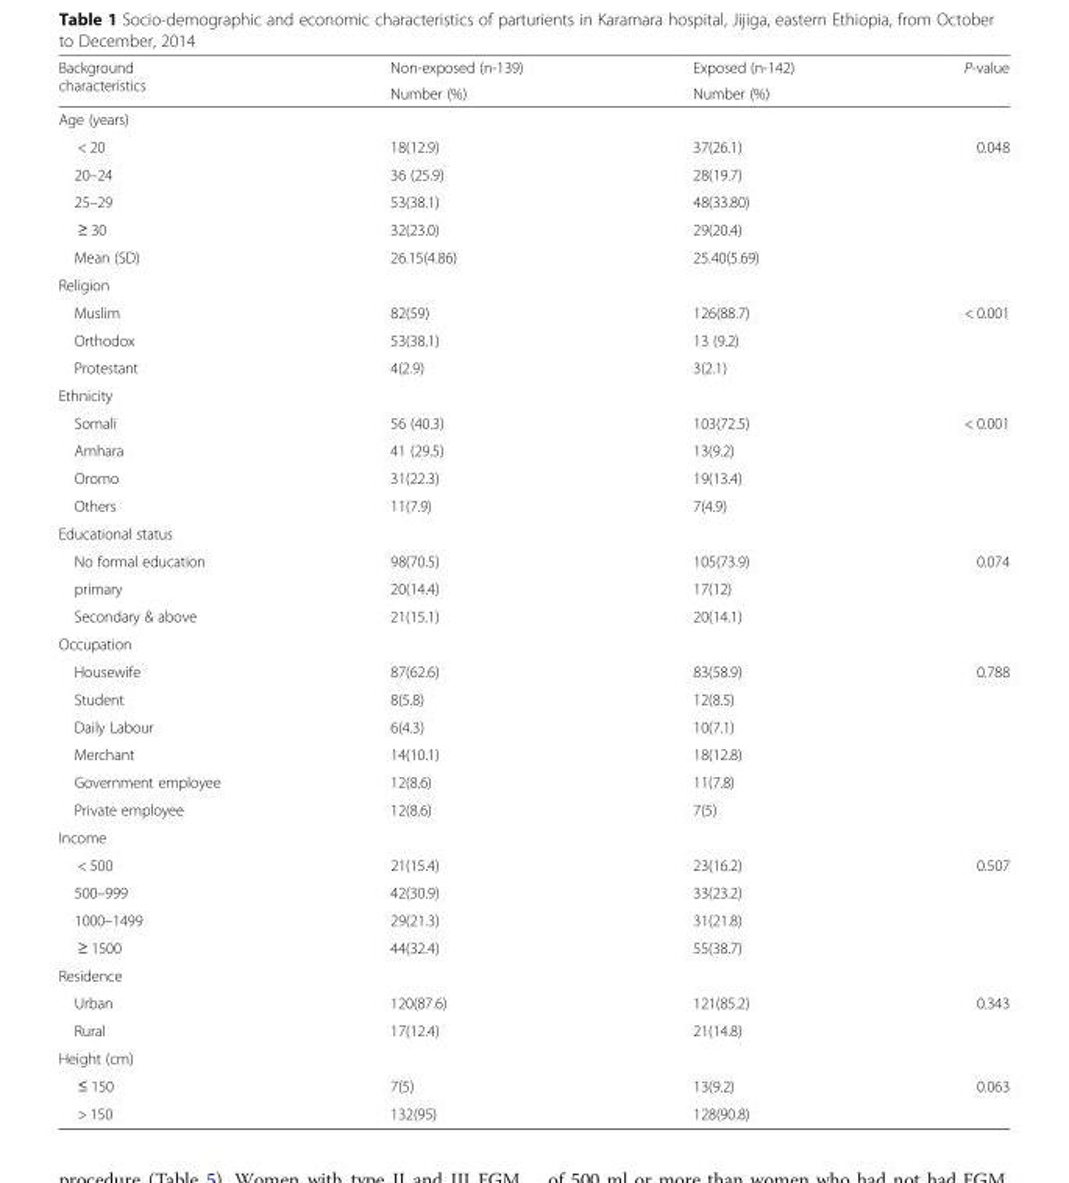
<table><thead><tr><td rowspan="2">Background characteristics</td><td rowspan="2">Non-exposed (n-139) Number (%)</td><td rowspan="2">Exposed (n-142) Number (%)</td><td rowspan="2">P-value</td></tr><tr></tr></thead><tbody><tr><td colspan="4">Age (years)</td></tr><tr><td>&lt; 20</td><td>18(12.9)</td><td>37(26.1)</td><td>0.048</td></tr><tr><td>20–24</td><td>36 (25.9)</td><td>28(19.7)</td><td></td></tr><tr><td>25–29</td><td>53(38.1)</td><td>48(33.80)</td><td></td></tr><tr><td>≥ 30</td><td>32(23.0)</td><td>29(20.4)</td><td></td></tr><tr><td>Mean (SD)</td><td>26.15(4.86)</td><td>25.40(5.69)</td><td></td></tr><tr><td colspan="4">Religion</td></tr><tr><td>Muslim</td><td>82(59)</td><td>126(88.7)</td><td>&lt; 0.001</td></tr><tr><td>Orthodox</td><td>53(38.1)</td><td>13 (9.2)</td><td></td></tr><tr><td>Protestant</td><td>4(2.9)</td><td>3(2.1)</td><td></td></tr><tr><td colspan="4">Ethnicity</td></tr><tr><td>Somali</td><td>56 (40.3)</td><td>103(72.5)</td><td>&lt; 0.001</td></tr><tr><td>Amhara</td><td>41 (29.5)</td><td>13(9.2)</td><td></td></tr><tr><td>Oromo</td><td>31(22.3)</td><td>19(13.4)</td><td></td></tr><tr><td>Others</td><td>11(7.9)</td><td>7(4.9)</td><td></td></tr><tr><td colspan="4">Educational status</td></tr><tr><td>No formal education</td><td>98(70.5)</td><td>105(73.9)</td><td>0.074</td></tr><tr><td>primary</td><td>20(14.4)</td><td>17(12)</td><td></td></tr><tr><td>Secondary &amp; above</td><td>21(15.1)</td><td>20(14.1)</td><td></td></tr><tr><td colspan="4">Occupation</td></tr><tr><td>Housewife</td><td>87(62.6)</td><td>83(58.9)</td><td>0.788</td></tr><tr><td>Student</td><td>8(5.8)</td><td>12(8.5)</td><td></td></tr><tr><td>Daily Labour</td><td>6(4.3)</td><td>10(7.1)</td><td></td></tr><tr><td>Merchant</td><td>14(10.1)</td><td>18(12.8)</td><td></td></tr><tr><td>Government employee</td><td>12(8.6)</td><td>11(7.8)</td><td></td></tr><tr><td>Private employee</td><td>12(8.6)</td><td>7(5)</td><td></td></tr><tr><td colspan="4">Income</td></tr><tr><td>&lt; 500</td><td>21(15.4)</td><td>23(16.2)</td><td>0.507</td></tr><tr><td>500–999</td><td>42(30.9)</td><td>33(23.2)</td><td></td></tr><tr><td>1000–1499</td><td>29(21.3)</td><td>31(21.8)</td><td></td></tr><tr><td>≥ 1500</td><td>44(32.4)</td><td>55(38.7)</td><td></td></tr><tr><td colspan="4">Residence</td></tr><tr><td>Urban</td><td>120(87.6)</td><td>121(85.2)</td><td>0.343</td></tr><tr><td>Rural</td><td>17(12.4)</td><td>21(14.8)</td><td></td></tr><tr><td colspan="4">Height (cm)</td></tr><tr><td>≤ 150</td><td>7(5)</td><td>13(9.2)</td><td>0.063</td></tr><tr><td>&gt; 150</td><td>132(95)</td><td>128(90.8)</td><td></td></tr></tbody></table>